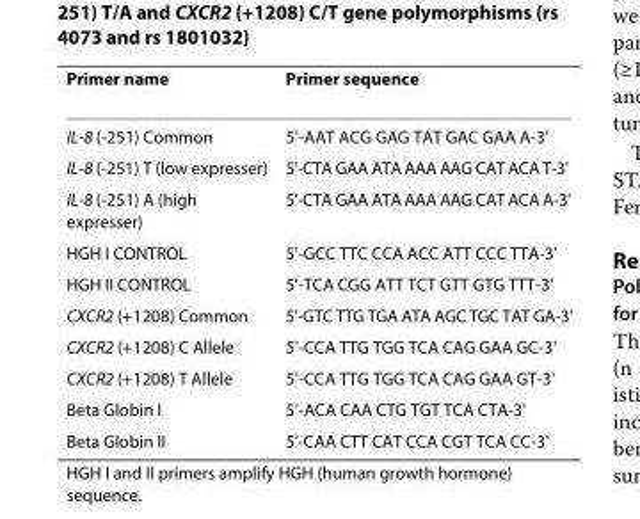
<table><thead><tr><td>Primer name</td><td>Primer sequence</td></tr></thead><tbody><tr><td>IL-8 (-251) Common</td><td>5&#x27;-AAT ACG GAG TAT GAC GAA A-3&#x27;</td></tr><tr><td>IL-8 (-251) T (low expresser)</td><td>5&#x27;-CTA GAA ATA AAA AAG CAT ACA T-3&#x27;</td></tr><tr><td>IL-8 (-251) A (high expresser)</td><td>5&#x27;-CTA GAA ATA AAA AAG CAT ACA A-3&#x27;</td></tr><tr><td>HGH I CONTROL</td><td>5&#x27;-GCC TTC CCA ACC ATT CCC TTA-3&#x27;</td></tr><tr><td>HGH II CONTROL</td><td>5&#x27;-TCA CGG ATT TCT GTT GTG TTT-3&#x27;</td></tr><tr><td>CXCR2 (+1208) Common</td><td>5&#x27;-GTC TTG TGA ATA AGC TGC TAT GA-3&#x27;</td></tr><tr><td>CXCR2 (+1208) C Allele</td><td>5&#x27;-CCA TTG TGG TCA CAG GAA GC-3&#x27;</td></tr><tr><td>CXCR2 (+1208) T Allele</td><td>5&#x27;-CCA TTG TGG TCA CAG GAA GT-3&#x27;</td></tr><tr><td>Beta Globin I</td><td>5&#x27;-ACA CAA CTG TGT TCA CTA-3&#x27;</td></tr><tr><td>Beta Globin II</td><td>5&#x27;-CAA CTT CAT CCA CGT TCA CC-3&#x27;</td></tr></tbody></table>